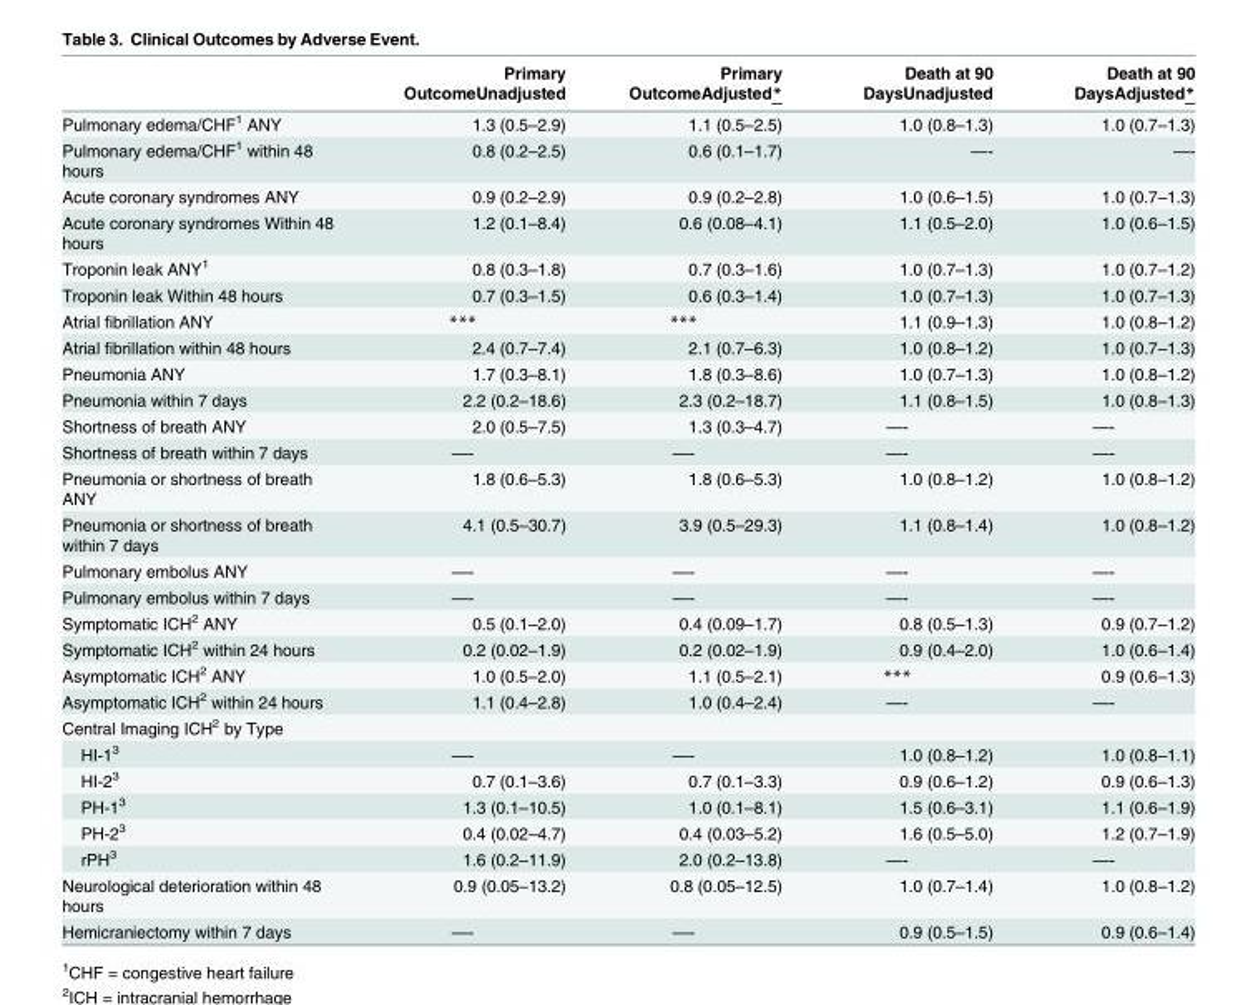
<table><thead><tr><td></td><td>Primary OutcomeUnadjusted</td><td>Primary OutcomeAdjusted*</td><td>Death at 90 DaysUnadjusted</td><td>Death at 90 DaysAdjusted*</td></tr></thead><tbody><tr><td>Pulmonary edema/CHF<sup>1</sup> ANY</td><td>1.3 (0.5–2.9)</td><td>1.1 (0.5–2.5)</td><td>1.0 (0.8–1.3)</td><td>1.0 (0.7–1.3)</td></tr><tr><td>Pulmonary edema/CHF<sup>1</sup> within 48 hours</td><td>0.8 (0.2–2.5)</td><td>0.6 (0.1–1.7)</td><td>—-</td><td>—-</td></tr><tr><td>Acute coronary syndromes ANY</td><td>0.9 (0.2–2.9)</td><td>0.9 (0.2–2.8)</td><td>1.0 (0.6–1.5)</td><td>1.0 (0.7–1.3)</td></tr><tr><td>Acute coronary syndromes Within 48 hours</td><td>1.2 (0.1–8.4)</td><td>0.6 (0.08–4.1)</td><td>1.1 (0.5–2.0)</td><td>1.0 (0.6–1.5)</td></tr><tr><td>Troponin leak ANY<sup>1</sup></td><td>0.8 (0.3–1.8)</td><td>0.7 (0.3–1.6)</td><td>1.0 (0.7–1.3)</td><td>1.0 (0.7–1.2)</td></tr><tr><td>Troponin leak Within 48 hours</td><td>0.7 (0.3–1.5)</td><td>0.6 (0.3–1.4)</td><td>1.0 (0.7–1.3)</td><td>1.0 (0.7–1.3)</td></tr><tr><td>Atrial fibrillation ANY</td><td>***</td><td>***</td><td>1.1 (0.9–1.3)</td><td>1.0 (0.8–1.2)</td></tr><tr><td>Atrial fibrillation within 48 hours</td><td>2.4 (0.7–7.4)</td><td>2.1 (0.7–6.3)</td><td>1.0 (0.8–1.2)</td><td>1.0 (0.7–1.3)</td></tr><tr><td>Pneumonia ANY</td><td>1.7 (0.3–8.1)</td><td>1.8 (0.3–8.6)</td><td>1.0 (0.7–1.3)</td><td>1.0 (0.8–1.2)</td></tr><tr><td>Pneumonia within 7 days</td><td>2.2 (0.2–18.6)</td><td>2.3 (0.2–18.7)</td><td>1.1 (0.8–1.5)</td><td>1.0 (0.8–1.3)</td></tr><tr><td>Shortness of breath ANY</td><td>2.0 (0.5–7.5)</td><td>1.3 (0.3–4.7)</td><td>—-</td><td>—-</td></tr><tr><td>Shortness of breath within 7 days</td><td>—-</td><td>—-</td><td>—-</td><td>—-</td></tr><tr><td>Pneumonia or shortness of breath ANY</td><td>1.8 (0.6–5.3)</td><td>1.8 (0.6–5.3)</td><td>1.0 (0.8–1.2)</td><td>1.0 (0.8–1.2)</td></tr><tr><td>Pneumonia or shortness of breath within 7 days</td><td>4.1 (0.5–30.7)</td><td>3.9 (0.5–29.3)</td><td>1.1 (0.8–1.4)</td><td>1.0 (0.8–1.2)</td></tr><tr><td>Pulmonary embolus ANY</td><td>—-</td><td>—-</td><td>—-</td><td>—-</td></tr><tr><td>Pulmonary embolus within 7 days</td><td>—-</td><td>—-</td><td>—-</td><td>—-</td></tr><tr><td>Symptomatic ICH<sup>2</sup> ANY</td><td>0.5 (0.1–2.0)</td><td>0.4 (0.09–1.7)</td><td>0.8 (0.5–1.3)</td><td>0.9 (0.7–1.2)</td></tr><tr><td>Symptomatic ICH<sup>2</sup> within 24 hours</td><td>0.2 (0.02–1.9)</td><td>0.2 (0.02–1.9)</td><td>0.9 (0.4–2.0)</td><td>1.0 (0.6–1.4)</td></tr><tr><td>Asymptomatic ICH<sup>2</sup> ANY</td><td>1.0 (0.5–2.0)</td><td>1.1 (0.5–2.1)</td><td>***</td><td>0.9 (0.6–1.3)</td></tr><tr><td>Asymptomatic ICH<sup>2</sup> within 24 hours</td><td>1.1 (0.4–2.8)</td><td>1.0 (0.4–2.4)</td><td>—-</td><td>—-</td></tr><tr><td colspan="5">Central Imaging ICH<sup>2</sup> by Type</td></tr><tr><td>HI-1<sup>3</sup></td><td>—-</td><td>—-</td><td>1.0 (0.8–1.2)</td><td>1.0 (0.8–1.1)</td></tr><tr><td>HI-2<sup>3</sup></td><td>0.7 (0.1–3.6)</td><td>0.7 (0.1–3.3)</td><td>0.9 (0.6–1.2)</td><td>0.9 (0.6–1.3)</td></tr><tr><td>PH-1<sup>3</sup></td><td>1.3 (0.1–10.5)</td><td>1.0 (0.1–8.1)</td><td>1.5 (0.6–3.1)</td><td>1.1 (0.6–1.9)</td></tr><tr><td>PH-2<sup>3</sup></td><td>0.4 (0.02–4.7)</td><td>0.4 (0.03–5.2)</td><td>1.6 (0.5–5.0)</td><td>1.2 (0.7–1.9)</td></tr><tr><td>rPH<sup>3</sup></td><td>1.6 (0.2–11.9)</td><td>2.0 (0.2–13.8)</td><td>—-</td><td>—-</td></tr><tr><td>Neurological deterioration within 48 hours</td><td>0.9 (0.05–13.2)</td><td>0.8 (0.05–12.5)</td><td>1.0 (0.7–1.4)</td><td>1.0 (0.8–1.2)</td></tr><tr><td>Hemicraniectomy within 7 days</td><td>—-</td><td>—-</td><td>0.9 (0.5–1.5)</td><td>0.9 (0.6–1.4)</td></tr></tbody></table>